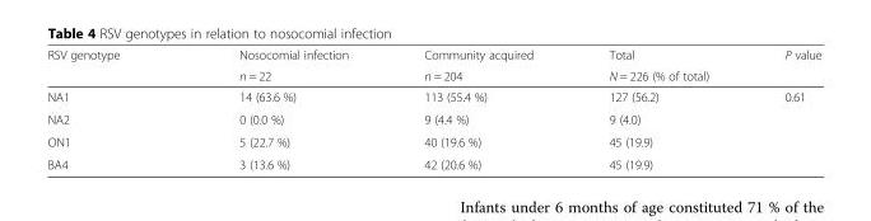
<table><thead><tr><td rowspan="2">RSV genotype</td><td rowspan="2">Nosocomial infection n = 22</td><td rowspan="2">Community acquired n = 204</td><td rowspan="2">Total N = 226 (% of total)</td><td rowspan="2">P value</td></tr><tr></tr></thead><tbody><tr><td>NA1</td><td>14 (63.6 %)</td><td>113 (55.4 %)</td><td>127 (56.2)</td><td>0.61</td></tr><tr><td>NA2</td><td>0 (0.0 %)</td><td>9 (4.4 %)</td><td>9 (4.0)</td><td></td></tr><tr><td>ON1</td><td>5 (22.7 %)</td><td>40 (19.6 %)</td><td>45 (19.9)</td><td></td></tr><tr><td>BA4</td><td>3 (13.6 %)</td><td>42 (20.6 %)</td><td>45 (19.9)</td><td></td></tr></tbody></table>